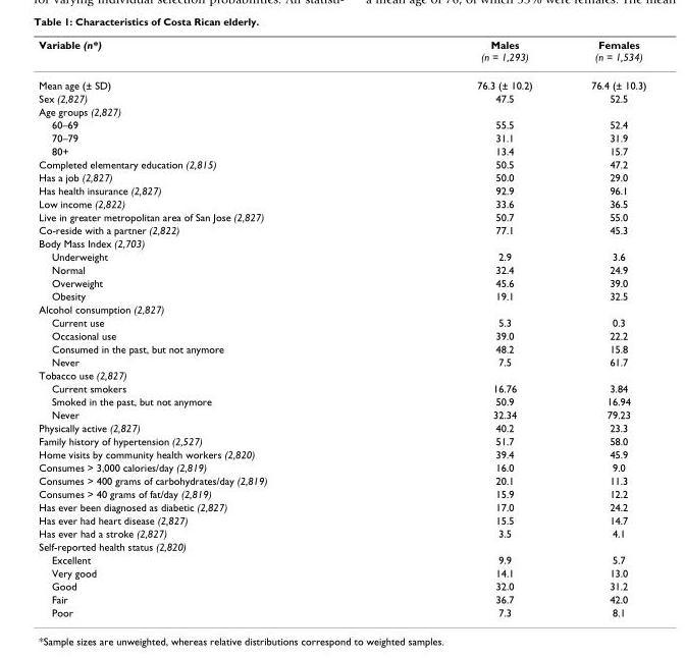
<table><thead><tr><td>Variable (n*)</td><td>Males (n = 1,293)</td><td>Females (n = 1,534)</td></tr></thead><tbody><tr><td>Mean age (± SD)</td><td>76.3 (± 10.2)</td><td>76.4 (± 10.3)</td></tr><tr><td>Sex (2,827)</td><td>47.5</td><td>52.5</td></tr><tr><td colspan="3">Age groups (2,827)</td></tr><tr><td>60–69</td><td>55.5</td><td>52.4</td></tr><tr><td>70–79</td><td>31.1</td><td>31.9</td></tr><tr><td>80+</td><td>13.4</td><td>15.7</td></tr><tr><td>Completed elementary education (2,815)</td><td>50.5</td><td>47.2</td></tr><tr><td>Has a job (2,827)</td><td>50.0</td><td>29.0</td></tr><tr><td>Has health insurance (2,827)</td><td>92.9</td><td>96.1</td></tr><tr><td>Low income (2,822)</td><td>33.6</td><td>36.5</td></tr><tr><td>Live in greater metropolitan area of San Jose (2,827)</td><td>50.7</td><td>55.0</td></tr><tr><td>Co-reside with a partner (2,822)</td><td>77.1</td><td>45.3</td></tr><tr><td colspan="3">Body Mass Index (2,703)</td></tr><tr><td>Underweight</td><td>2.9</td><td>3.6</td></tr><tr><td>Normal</td><td>32.4</td><td>24.9</td></tr><tr><td>Overweight</td><td>45.6</td><td>39.0</td></tr><tr><td>Obesity</td><td>19.1</td><td>32.5</td></tr><tr><td colspan="3">Alcohol consumption (2,827)</td></tr><tr><td>Current use</td><td>5.3</td><td>0.3</td></tr><tr><td>Occasional use</td><td>39.0</td><td>22.2</td></tr><tr><td>Consumed in the past, but not anymore</td><td>48.2</td><td>15.8</td></tr><tr><td>Never</td><td>7.5</td><td>61.7</td></tr><tr><td colspan="3">Tobacco use (2,827)</td></tr><tr><td>Current smokers</td><td>16.76</td><td>3.84</td></tr><tr><td>Smoked in the past, but not anymore</td><td>50.9</td><td>16.94</td></tr><tr><td>Never</td><td>32.34</td><td>79.23</td></tr><tr><td>Physically active (2,827)</td><td>40.2</td><td>23.3</td></tr><tr><td>Family history of hypertension (2,527)</td><td>51.7</td><td>58.0</td></tr><tr><td>Home visits by community health workers (2,820)</td><td>39.4</td><td>45.9</td></tr><tr><td>Consumes &gt; 3,000 calories/day (2,819)</td><td>16.0</td><td>9.0</td></tr><tr><td>Consumes &gt; 400 grams of carbohydrates/day (2,819)</td><td>20.1</td><td>11.3</td></tr><tr><td>Consumes &gt; 40 grams of fat/day (2,819)</td><td>15.9</td><td>12.2</td></tr><tr><td>Has ever been diagnosed as diabetic (2,827)</td><td>17.0</td><td>24.2</td></tr><tr><td>Has ever had heart disease (2,827)</td><td>15.5</td><td>14.7</td></tr><tr><td>Has ever had a stroke (2,827)</td><td>3.5</td><td>4.1</td></tr><tr><td colspan="3">Self-reported health status (2,820)</td></tr><tr><td>Excellent</td><td>9.9</td><td>5.7</td></tr><tr><td>Very good</td><td>14.1</td><td>13.0</td></tr><tr><td>Good</td><td>32.0</td><td>31.2</td></tr><tr><td>Fair</td><td>36.7</td><td>42.0</td></tr><tr><td>Poor</td><td>7.3</td><td>8.1</td></tr></tbody></table>